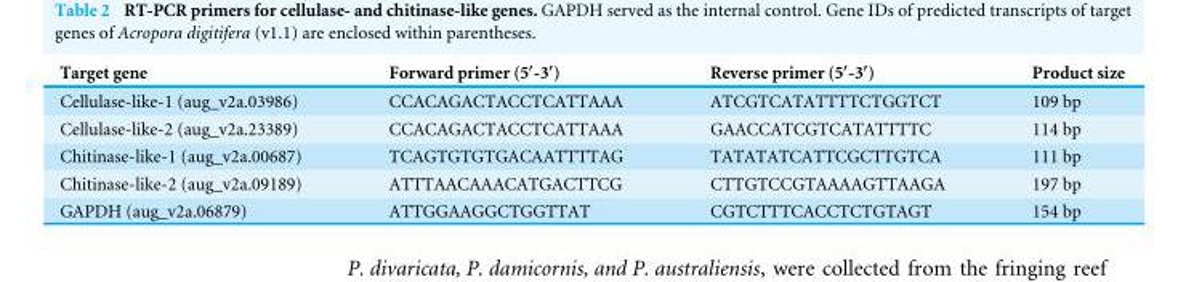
<table><thead><tr><td>Target gene</td><td>Forward primer (5′-3′)</td><td>Reverse primer (5′-3′)</td><td>Product size</td></tr></thead><tbody><tr><td>Cellulase-like-1 (aug_v2a.03986)</td><td>CCACAGACTACCTCATTAAA</td><td>ATCGTCATATTTTCTGGTCT</td><td>109 bp</td></tr><tr><td>Cellulase-like-2 (aug_v2a.23389)</td><td>CCACAGACTACCTCATTAAA</td><td>GAACCATCGTCATATTTTC</td><td>114 bp</td></tr><tr><td>Chitinase-like-1 (aug_v2a.00687)</td><td>TCAGTGTGTGACAATTTTAG</td><td>TATATATCATTCGCTTGTCA</td><td>111 bp</td></tr><tr><td>Chitinase-like-2 (aug_v2a.09189)</td><td>ATTTAACAAACATGACTTCG</td><td>CTTGTCCGTAAAAGTTAAGA</td><td>197 bp</td></tr><tr><td>GAPDH (aug_v2a.06879)</td><td>ATTGGAAGGCTGGTTAT</td><td>CGTCTTTCACCTCTGTAGT</td><td>154 bp</td></tr></tbody></table>